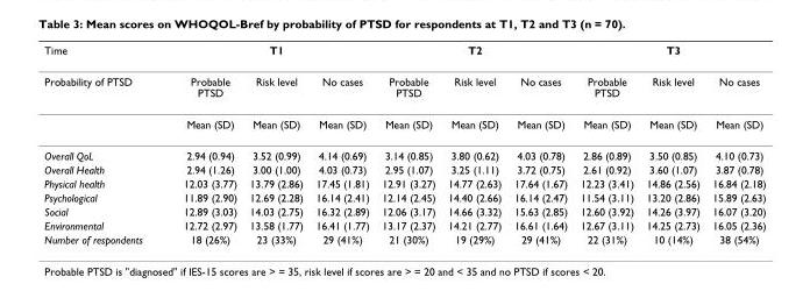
<table><thead><tr><td rowspan="2">Time Probability of PTSD</td><td colspan="3">T1</td><td colspan="3">T2</td><td colspan="3">T3</td></tr><tr><td>Probable PTSD</td><td>Risk level</td><td>No cases</td><td>Probable PTSD</td><td>Risk level</td><td>No cases</td><td>Probable PTSD</td><td>Risk level</td><td>No cases</td></tr></thead><tbody><tr><td></td><td>Mean (SD)</td><td>Mean (SD)</td><td>Mean (SD)</td><td>Mean (SD)</td><td>Mean (SD)</td><td>Mean (SD)</td><td>Mean (SD)</td><td>Mean (SD)</td><td>Mean (SD)</td></tr><tr><td>Overall QoL</td><td>2.94 (0.94)</td><td>3.52 (0.99)</td><td>4.14 (0.69)</td><td>3.14 (0.85)</td><td>3.80 (0.62)</td><td>4.03 (0.78)</td><td>2.86 (0.89)</td><td>3.50 (0.85)</td><td>4.10 (0.73)</td></tr><tr><td>Overall Health</td><td>2.94 (1.26)</td><td>3.00 (1.00)</td><td>4.03 (0.73)</td><td>2.95 (1.07)</td><td>3.25 (1.11)</td><td>3.72 (0.75)</td><td>2.61 (0.92)</td><td>3.60 (1.07)</td><td>3.87 (0.78)</td></tr><tr><td>Physical health</td><td>12.03 (3.77)</td><td>13.79 (2.86)</td><td>17.45 (1.81)</td><td>12.91 (3.27)</td><td>14.77 (2.63)</td><td>17.64 (1.67)</td><td>12.23 (3.41)</td><td>14.86 (2.56)</td><td>16.84 (2.18)</td></tr><tr><td>Psychological</td><td>11.89 (2.90)</td><td>12.69 (2.28)</td><td>16.14 (2.41)</td><td>12.14 (2.45)</td><td>14.40 (2.66)</td><td>16.14 (2.47)</td><td>11.54 (3.11)</td><td>13.20 (2.86)</td><td>15.89 (2.63)</td></tr><tr><td>Social</td><td>12.89 (3.03)</td><td>14.03 (2.75)</td><td>16.32 (2.89)</td><td>12.06 (3.17)</td><td>14.66 (3.32)</td><td>15.63 (2.85)</td><td>12.60 (3.92)</td><td>14.26 (3.97)</td><td>16.07 (3.20)</td></tr><tr><td>Environmental</td><td>12.72 (2.97)</td><td>13.58 (1.77)</td><td>16.41 (1.77)</td><td>13.17 (2.37)</td><td>14.21 (2.77)</td><td>16.61 (1.64)</td><td>12.67 (3.11)</td><td>14.25 (2.73)</td><td>16.05 (2.36)</td></tr><tr><td>Number of respondents</td><td>18 (26%)</td><td>23 (33%)</td><td>29 (41%)</td><td>21 (30%)</td><td>19 (29%)</td><td>29 (41%)</td><td>22 (31%)</td><td>10 (14%)</td><td>38 (54%)</td></tr></tbody></table>